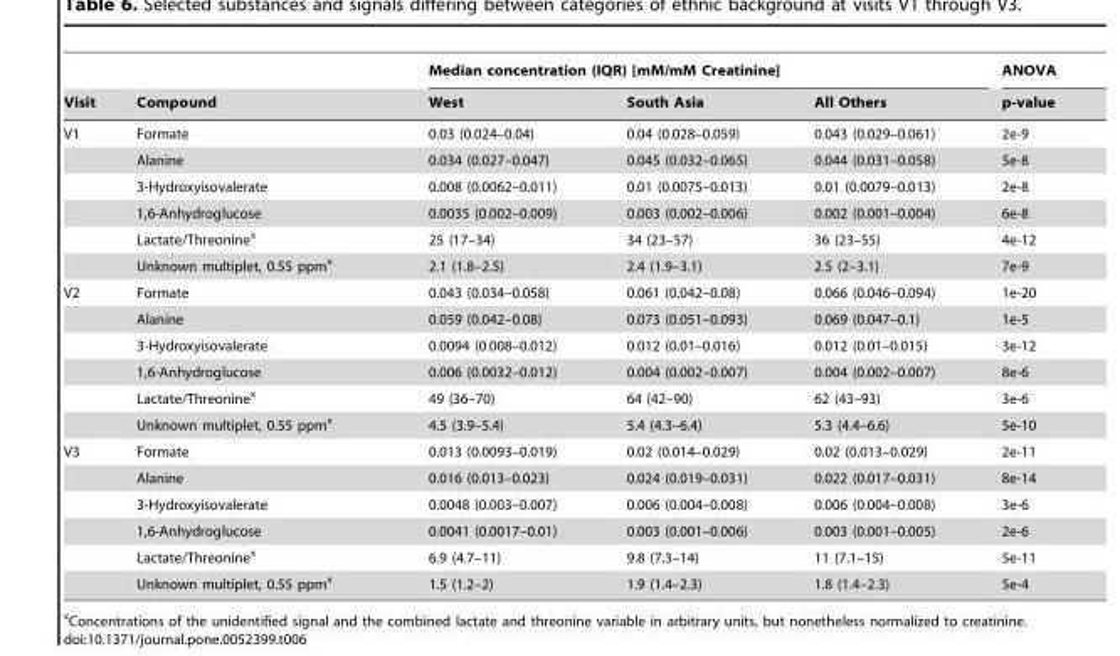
<table><thead><tr><td rowspan="2">Visit</td><td rowspan="2">Compound</td><td colspan="3">Median concentration (IQR) [mM/mM Creatinine]</td><td rowspan="2">ANOVA p-value</td></tr><tr><td>West</td><td>South Asia</td><td>All Others</td></tr></thead><tbody><tr><td rowspan="6">V1</td><td>Formate</td><td>0.03 (0.024–0.04)</td><td>0.04 (0.028–0.059)</td><td>0.043 (0.029–0.061)</td><td>2e-9</td></tr><tr><td>Alanine</td><td>0.034 (0.027–0.047)</td><td>0.045 (0.032–0.065)</td><td>0.044 (0.031–0.058)</td><td>5e-8</td></tr><tr><td>3-Hydroxyisovalerate</td><td>0.008 (0.0062–0.011)</td><td>0.01 (0.0075–0.013)</td><td>0.01 (0.0079–0.013)</td><td>2e-8</td></tr><tr><td>1,6-Anhydroglucose</td><td>0.0035 (0.002–0.009)</td><td>0.003 (0.002–0.006)</td><td>0.002 (0.001–0.004)</td><td>6e-8</td></tr><tr><td>Lactate/Threonine<sup>x</sup></td><td>25 (17–34)</td><td>34 (23–57)</td><td>36 (23–55)</td><td>4e-12</td></tr><tr><td>Unknown multiplet, 0.55 ppm<sup>x</sup></td><td>2.1 (1.8–2.5)</td><td>2.4 (1.9–3.1)</td><td>2.5 (2–3.1)</td><td>7e-9</td></tr><tr><td rowspan="6">V2</td><td>Formate</td><td>0.043 (0.034–0.058)</td><td>0.061 (0.042–0.08)</td><td>0.066 (0.046–0.094)</td><td>1e-20</td></tr><tr><td>Alanine</td><td>0.059 (0.042–0.08)</td><td>0.073 (0.051–0.093)</td><td>0.069 (0.047–0.1)</td><td>1e-5</td></tr><tr><td>3-Hydroxyisovalerate</td><td>0.0094 (0.008–0.012)</td><td>0.012 (0.01–0.016)</td><td>0.012 (0.01–0.015)</td><td>3e-12</td></tr><tr><td>1,6-Anhydroglucose</td><td>0.006 (0.0032–0.012)</td><td>0.004 (0.002–0.007)</td><td>0.004 (0.002–0.007)</td><td>8e-6</td></tr><tr><td>Lactate/Threonine<sup>x</sup></td><td>49 (36–70)</td><td>64 (42–90)</td><td>62 (43–93)</td><td>3e-6</td></tr><tr><td>Unknown multiplet, 0.55 ppm<sup>x</sup></td><td>4.5 (3.9–5.4)</td><td>5.4 (4.3–6.4)</td><td>5.3 (4.4–6.6)</td><td>5e-10</td></tr><tr><td rowspan="6">V3</td><td>Formate</td><td>0.013 (0.0093–0.019)</td><td>0.02 (0.014–0.029)</td><td>0.02 (0.013–0.029)</td><td>2e-11</td></tr><tr><td>Alanine</td><td>0.016 (0.013–0.023)</td><td>0.024 (0.019–0.031)</td><td>0.022 (0.017–0.031)</td><td>8e-14</td></tr><tr><td>3-Hydroxyisovalerate</td><td>0.0048 (0.003–0.007)</td><td>0.006 (0.004–0.008)</td><td>0.006 (0.004–0.008)</td><td>3e-6</td></tr><tr><td>1,6-Anhydroglucose</td><td>0.0041 (0.0017–0.01)</td><td>0.003 (0.001–0.006)</td><td>0.003 (0.001–0.005)</td><td>2e-6</td></tr><tr><td>Lactate/Threonine<sup>x</sup></td><td>6.9 (4.7–11)</td><td>9.8 (7.3–14)</td><td>11 (7.1–15)</td><td>5e-11</td></tr><tr><td>Unknown multiplet, 0.55 ppm<sup>x</sup></td><td>1.5 (1.2–2)</td><td>1.9 (1.4–2.3)</td><td>1.8 (1.4–2.3)</td><td>5e-4</td></tr></tbody></table>